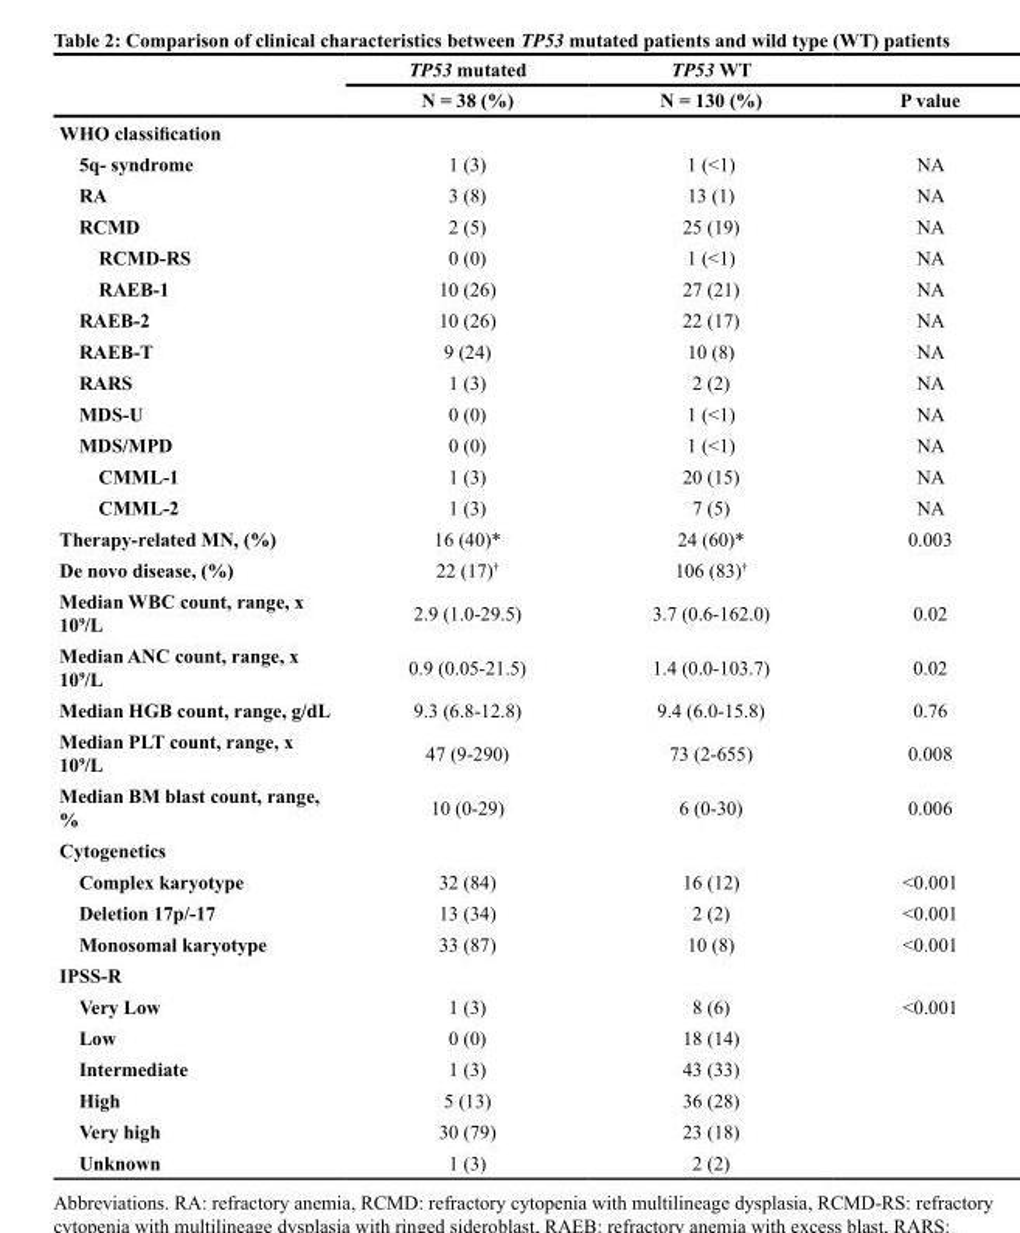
<table><thead><tr><td rowspan="2"></td><td rowspan="2">TP53 mutated N = 38 (%)</td><td rowspan="2">TP53 WT N = 130 (%)</td><td rowspan="2">P value</td></tr><tr></tr></thead><tbody><tr><td colspan="4">WHO classification</td></tr><tr><td>5q- syndrome</td><td>1 (3)</td><td>1 (&lt;1)</td><td>NA</td></tr><tr><td>RA</td><td>3 (8)</td><td>13 (1)</td><td>NA</td></tr><tr><td>RCMD</td><td>2 (5)</td><td>25 (19)</td><td>NA</td></tr><tr><td>RCMD-RS</td><td>0 (0)</td><td>1 (&lt;1)</td><td>NA</td></tr><tr><td>RAEB-1</td><td>10 (26)</td><td>27 (21)</td><td>NA</td></tr><tr><td>RAEB-2</td><td>10 (26)</td><td>22 (17)</td><td>NA</td></tr><tr><td>RAEB-T</td><td>9 (24)</td><td>10 (8)</td><td>NA</td></tr><tr><td>RARS</td><td>1 (3)</td><td>2 (2)</td><td>NA</td></tr><tr><td>MDS-U</td><td>0 (0)</td><td>1 (&lt;1)</td><td>NA</td></tr><tr><td>MDS/MPD</td><td>0 (0)</td><td>1 (&lt;1)</td><td>NA</td></tr><tr><td>CMML-1</td><td>1 (3)</td><td>20 (15)</td><td>NA</td></tr><tr><td>CMML-2</td><td>1 (3)</td><td>7 (5)</td><td>NA</td></tr><tr><td>Therapy-related MN, (%)</td><td>16 (40)*</td><td>24 (60)*</td><td>0.003</td></tr><tr><td>De novo disease, (%)</td><td>22 (17)<sup>†</sup></td><td>106 (83)<sup>†</sup></td><td></td></tr><tr><td>Median WBC count, range, x 109/L</td><td>2.9 (1.0-29.5)</td><td>3.7 (0.6-162.0)</td><td>0.02</td></tr><tr><td>Median ANC count, range, x 109/L</td><td>0.9 (0.05-21.5)</td><td>1.4 (0.0-103.7)</td><td>0.02</td></tr><tr><td>Median HGB count, range, g/dL</td><td>9.3 (6.8-12.8)</td><td>9.4 (6.0-15.8)</td><td>0.76</td></tr><tr><td>Median PLT count, range, x 109/L</td><td>47 (9-290)</td><td>73 (2-655)</td><td>0.008</td></tr><tr><td>Median BM blast count, range, %</td><td>10 (0-29)</td><td>6 (0-30)</td><td>0.006</td></tr><tr><td colspan="4">Cytogenetics</td></tr><tr><td>Complex karyotype</td><td>32 (84)</td><td>16 (12)</td><td>&lt;0.001</td></tr><tr><td>Deletion 17p/-17</td><td>13 (34)</td><td>2 (2)</td><td>&lt;0.001</td></tr><tr><td>Monosomal karyotype</td><td>33 (87)</td><td>10 (8)</td><td>&lt;0.001</td></tr><tr><td colspan="4">IPSS-R</td></tr><tr><td>Very Low</td><td>1 (3)</td><td>8 (6)</td><td>&lt;0.001</td></tr><tr><td>Low</td><td>0 (0)</td><td>18 (14)</td><td></td></tr><tr><td>Intermediate</td><td>1 (3)</td><td>43 (33)</td><td></td></tr><tr><td>High</td><td>5 (13)</td><td>36 (28)</td><td></td></tr><tr><td>Very high</td><td>30 (79)</td><td>23 (18)</td><td></td></tr><tr><td>Unknown</td><td>1 (3)</td><td>2 (2)</td><td></td></tr></tbody></table>